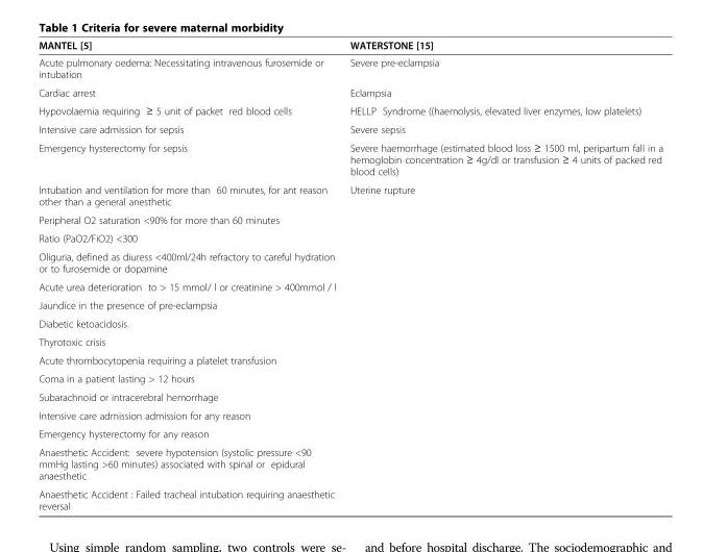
<table><thead><tr><td>MANTEL [5]</td><td>WATERSTONE [15]</td></tr></thead><tbody><tr><td>Acute pulmonary oedema: Necessitating intravenous furosemide or intubation</td><td>Severe pre-eclampsia</td></tr><tr><td>Cardiac arrest</td><td>Eclampsia</td></tr><tr><td>Hypovolaemia requiring ≥ 5 unit of packet red blood cells</td><td>HELLP Syndrome ((haemolysis, elevated liver enzymes, low platelets)</td></tr><tr><td>Intensive care admission for sepsis</td><td>Severe sepsis</td></tr><tr><td>Emergency hysterectomy for sepsis</td><td>Severe haemorrhage (estimated blood loss ≥ 1500 ml, peripartum fall in a hemoglobin concentration ≥ 4g/dl or transfusion ≥ 4 units of packed red blood cells)</td></tr><tr><td>Intubation and ventilation for more than 60 minutes, for ant reason other than a general anesthetic</td><td>Uterine rupture</td></tr><tr><td colspan="2">Peripheral O2 saturation &lt;90% for more than 60 minutes</td></tr><tr><td colspan="2">Ratio (PaO2/FiO2) &lt;300</td></tr><tr><td colspan="2">Oliguria, defined as diuress &lt;400ml/24h refractory to careful hydration or to furosemide or dopamine</td></tr><tr><td colspan="2">Acute urea deterioration to &gt; 15 mmol/ l or creatinine &gt; 400mmol / l</td></tr><tr><td colspan="2">Jaundice in the presence of pre-eclampsia</td></tr><tr><td colspan="2">Diabetic ketoacidosis</td></tr><tr><td colspan="2">Thyrotoxic crisis</td></tr><tr><td colspan="2">Acute thrombocytopenia requiring a platelet transfusion</td></tr><tr><td colspan="2">Coma in a patient lasting &gt; 12 hours</td></tr><tr><td colspan="2">Subarachnoid or intracerebral hemorrhage</td></tr><tr><td colspan="2">Intensive care admission admission for any reason</td></tr><tr><td colspan="2">Emergency hysterectomy for any reason</td></tr><tr><td colspan="2">Anaesthetic Accident: severe hypotension (systolic pressure &lt;90 mmHg lasting &gt;60 minutes) associated with spinal or epidural anaesthetic</td></tr><tr><td>Anaesthetic Accident : Failed tracheal intubation requiring anaesthetic reversal</td><td></td></tr></tbody></table>